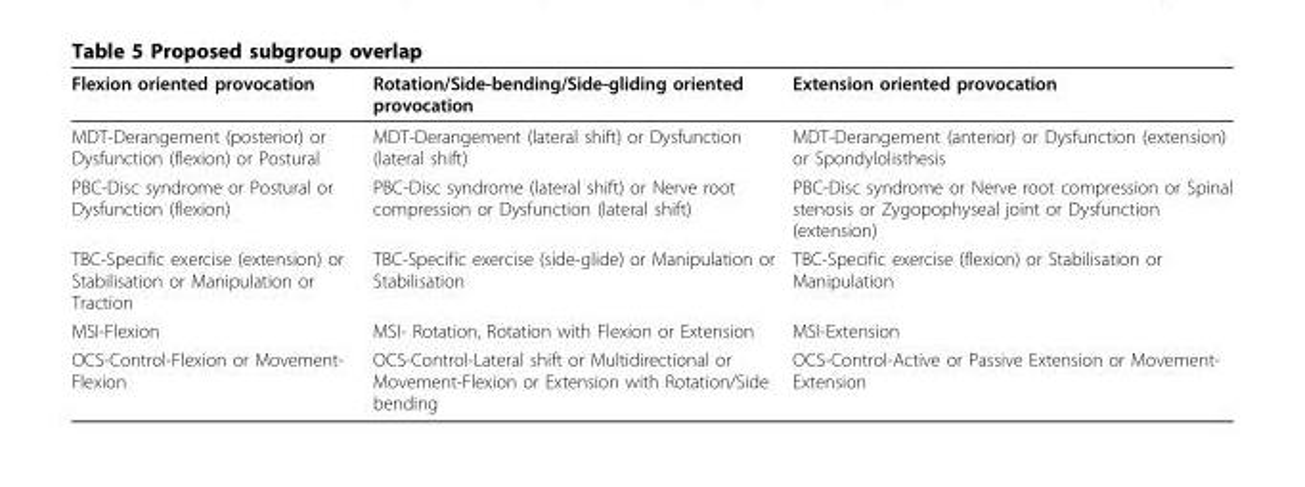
<table><thead><tr><td>Flexion oriented provocation</td><td>Rotation/Side-bending/Side-gliding oriented provocation</td><td>Extension oriented provocation</td></tr></thead><tbody><tr><td>MDT-Derangement (posterior) or Dysfunction (flexion) or Postural</td><td>MDT-Derangement (lateral shift) or Dysfunction (lateral shift)</td><td>MDT-Derangement (anterior) or Dysfunction (extension) or Spondylolisthesis</td></tr><tr><td>PBC-Disc syndrome or Postural or Dysfunction (flexion)</td><td>PBC-Disc syndrome (lateral shift) or Nerve root compression or Dysfunction (lateral shift)</td><td>PBC-Disc syndrome or Nerve root compression or Spinal stenosis or Zygopophyseal joint or Dysfunction (extension)</td></tr><tr><td>TBC-Specific exercise (extension) or Stabilisation or Manipulation or Traction</td><td>TBC-Specific exercise (side-glide) or Manipulation or Stabilisation</td><td>TBC-Specific exercise (flexion) or Stabilisation or Manipulation</td></tr><tr><td>MSI-Flexion</td><td>MSI- Rotation, Rotation with Flexion or Extension</td><td>MSI-Extension</td></tr><tr><td>OCS-Control-Flexion or Movement- Flexion</td><td>OCS-Control-Lateral shift or Multidirectional or Movement-Flexion or Extension with Rotation/Side bending</td><td>OCS-Control-Active or Passive Extension or Movement- Extension</td></tr></tbody></table>